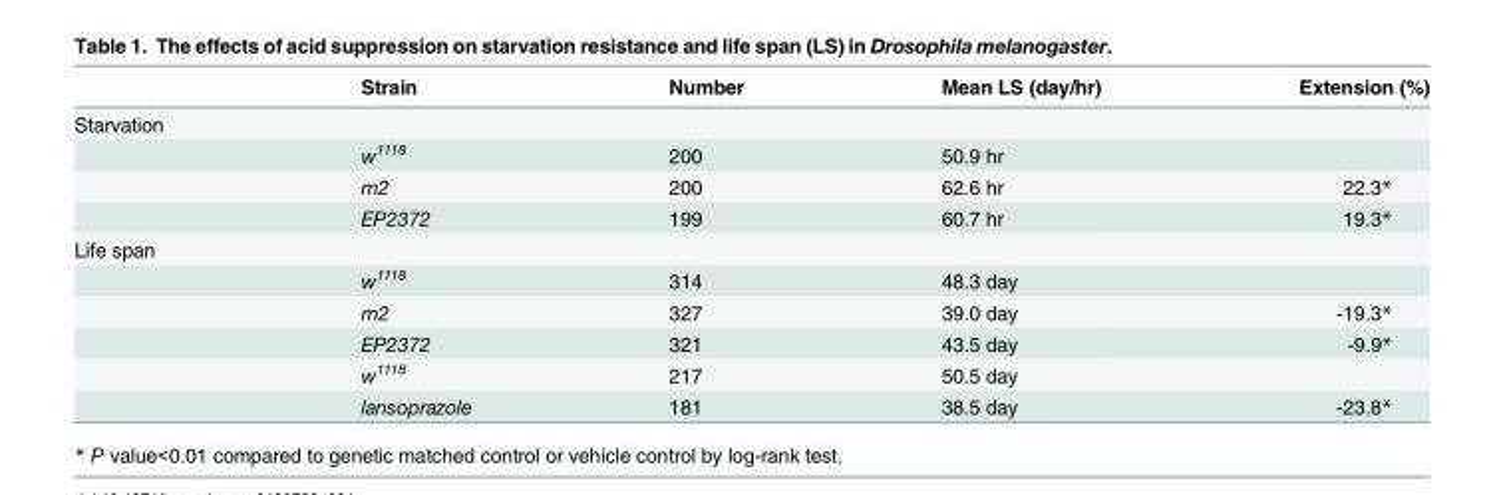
<table><thead><tr><td></td><td>Strain</td><td>Number</td><td>Mean LS (day/hr)</td><td>Extension (%)</td></tr></thead><tbody><tr><td colspan="5">Starvation</td></tr><tr><td></td><td>w<sup>1118</sup></td><td>200</td><td>50.9 hr</td><td></td></tr><tr><td></td><td>m2</td><td>200</td><td>62.6 hr</td><td>22.3*</td></tr><tr><td></td><td>EP2372</td><td>199</td><td>60.7 hr</td><td>19.3*</td></tr><tr><td colspan="5">Life span</td></tr><tr><td></td><td>w<sup>1118</sup></td><td>314</td><td>48.3 day</td><td></td></tr><tr><td></td><td>m2</td><td>327</td><td>39.0 day</td><td>-19.3*</td></tr><tr><td></td><td>EP2372</td><td>321</td><td>43.5 day</td><td>-9.9*</td></tr><tr><td></td><td>w<sup>1118</sup></td><td>217</td><td>50.5 day</td><td></td></tr><tr><td></td><td>lansoprazole</td><td>181</td><td>38.5 day</td><td>-23.8*</td></tr></tbody></table>